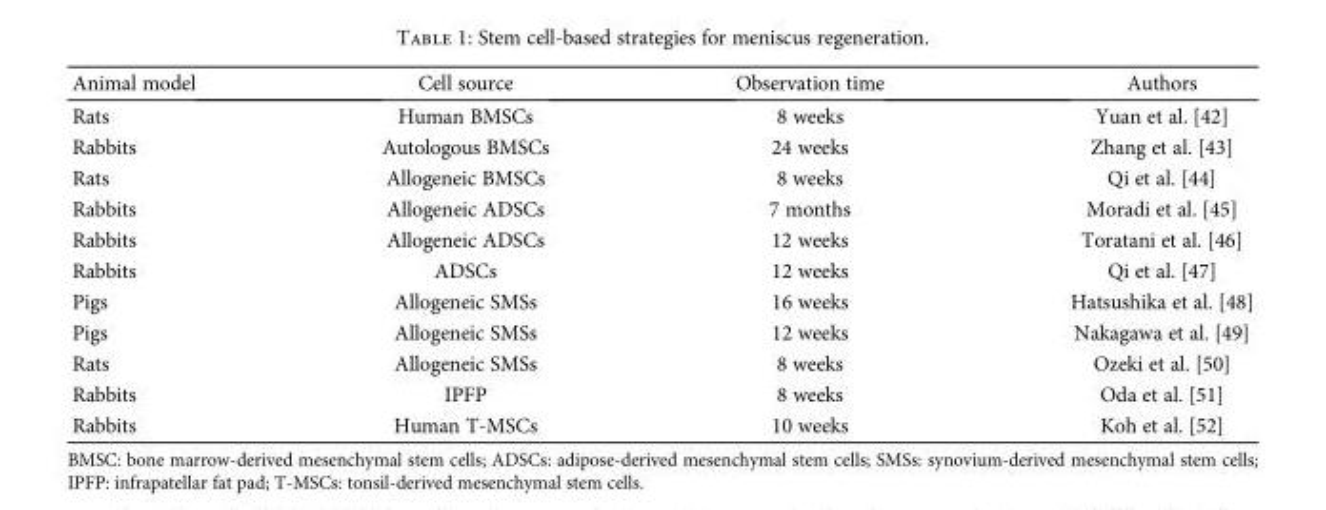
<table><thead><tr><td>Animal model</td><td>Cell source</td><td>Observation time</td><td>Authors</td></tr></thead><tbody><tr><td>Rats</td><td>Human BMSCs</td><td>8 weeks</td><td>Yuan et al. [42]</td></tr><tr><td>Rabbits</td><td>Autologous BMSCs</td><td>24 weeks</td><td>Zhang et al. [43]</td></tr><tr><td>Rats</td><td>Allogeneic BMSCs</td><td>8 weeks</td><td>Qi et al. [44]</td></tr><tr><td>Rabbits</td><td>Allogeneic ADSCs</td><td>7 months</td><td>Moradi et al. [45]</td></tr><tr><td>Rabbits</td><td>Allogeneic ADSCs</td><td>12 weeks</td><td>Toratani et al. [46]</td></tr><tr><td>Rabbits</td><td>ADSCs</td><td>12 weeks</td><td>Qi et al. [47]</td></tr><tr><td>Pigs</td><td>Allogeneic SMSs</td><td>16 weeks</td><td>Hatsushika et al. [48]</td></tr><tr><td>Pigs</td><td>Allogeneic SMSs</td><td>12 weeks</td><td>Nakagawa et al. [49]</td></tr><tr><td>Rats</td><td>Allogeneic SMSs</td><td>8 weeks</td><td>Ozeki et al. [50]</td></tr><tr><td>Rabbits</td><td>IPFP</td><td>8 weeks</td><td>Oda et al. [51]</td></tr><tr><td>Rabbits</td><td>Human T-MSCs</td><td>10 weeks</td><td>Koh et al. [52]</td></tr></tbody></table>